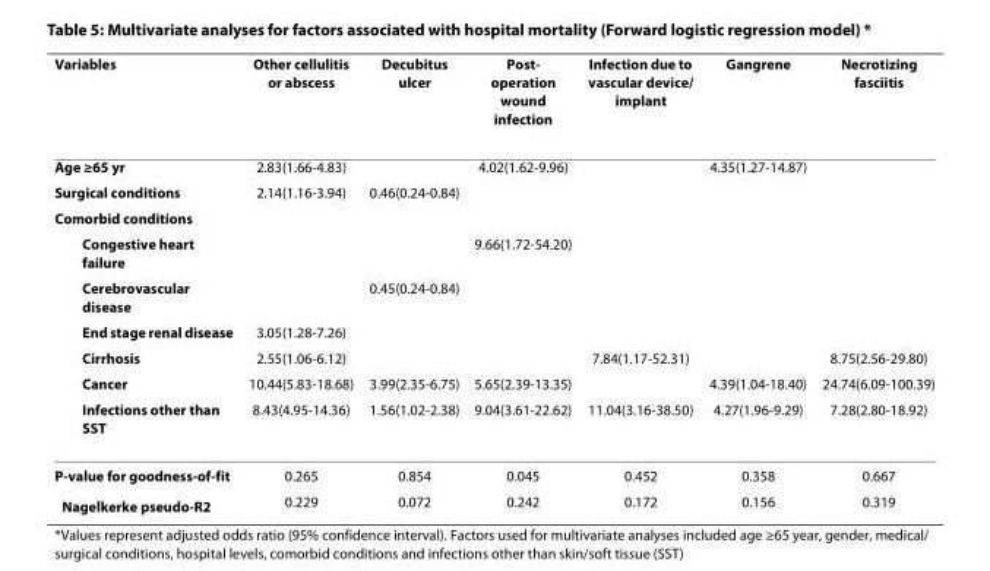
<table><thead><tr><td>Variables</td><td>Other cellulitis or abscess</td><td>Decubitus ulcer</td><td>Post- operation wound infection</td><td>Infection due to vascular device/ implant</td><td>Gangrene</td><td>Necrotizing fasciitis</td></tr></thead><tbody><tr><td>Age ≥65 yr</td><td>2.83(1.66-4.83)</td><td></td><td>4.02(1.62-9.96)</td><td></td><td>4.35(1.27-14.87)</td><td></td></tr><tr><td>Surgical conditions</td><td>2.14(1.16-3.94)</td><td>0.46(0.24-0.84)</td><td></td><td></td><td></td><td></td></tr><tr><td colspan="7">Comorbid conditions</td></tr><tr><td>Congestive heart failure</td><td></td><td></td><td>9.66(1.72-54.20)</td><td></td><td></td><td></td></tr><tr><td>Cerebrovascular disease</td><td></td><td>0.45(0.24-0.84)</td><td></td><td></td><td></td><td></td></tr><tr><td>End stage renal disease</td><td>3.05(1.28-7.26)</td><td></td><td></td><td></td><td></td><td></td></tr><tr><td>Cirrhosis</td><td>2.55(1.06-6.12)</td><td></td><td></td><td>7.84(1.17-52.31)</td><td></td><td>8.75(2.56-29.80)</td></tr><tr><td>Cancer</td><td>10.44(5.83-18.68)</td><td>3.99(2.35-6.75)</td><td>5.65(2.39-13.35)</td><td></td><td>4.39(1.04-18.40)</td><td>24.74(6.09-100.39)</td></tr><tr><td>Infections other than SST</td><td>8.43(4.95-14.36)</td><td>1.56(1.02-2.38)</td><td>9.04(3.61-22.62)</td><td>11.04(3.16-38.50)</td><td>4.27(1.96-9.29)</td><td>7.28(2.80-18.92)</td></tr><tr><td>P-value for goodness-of-fit</td><td>0.265</td><td>0.854</td><td>0.045</td><td>0.452</td><td>0.358</td><td>0.667</td></tr><tr><td>Nagelkerke pseudo-R<sup>2</sup></td><td>0.229</td><td>0.072</td><td>0.242</td><td>0.172</td><td>0.156</td><td>0.319</td></tr></tbody></table>